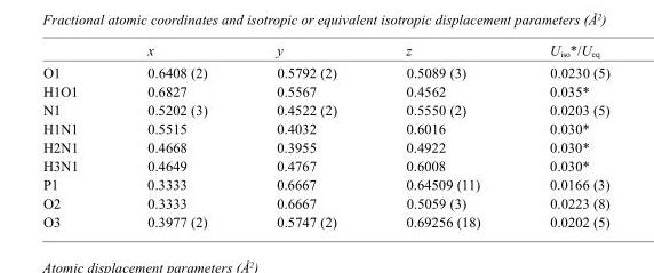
<table><thead><tr><td></td><td>x</td><td>y</td><td>z</td><td>U<sub>iso</sub>*/U<sub>eq</sub></td></tr></thead><tbody><tr><td>O1</td><td>0.6408 (2)</td><td>0.5792 (2)</td><td>0.5089 (3)</td><td>0.0230 (5)</td></tr><tr><td>H1O1</td><td>0.6827</td><td>0.5567</td><td>0.4562</td><td>0.035*</td></tr><tr><td>N1</td><td>0.5202 (3)</td><td>0.4522 (2)</td><td>0.5550 (2)</td><td>0.0203 (5)</td></tr><tr><td>H1N1</td><td>0.5515</td><td>0.4032</td><td>0.6016</td><td>0.030*</td></tr><tr><td>H2N1</td><td>0.4668</td><td>0.3955</td><td>0.4922</td><td>0.030*</td></tr><tr><td>H3N1</td><td>0.4649</td><td>0.4767</td><td>0.6008</td><td>0.030*</td></tr><tr><td>P1</td><td>0.3333</td><td>0.6667</td><td>0.64509 (11)</td><td>0.0166 (3)</td></tr><tr><td>O2</td><td>0.3333</td><td>0.6667</td><td>0.5059 (3)</td><td>0.0223 (8)</td></tr><tr><td>O3</td><td>0.3977 (2)</td><td>0.5747 (2)</td><td>0.69256 (18)</td><td>0.0202 (5)</td></tr></tbody></table>